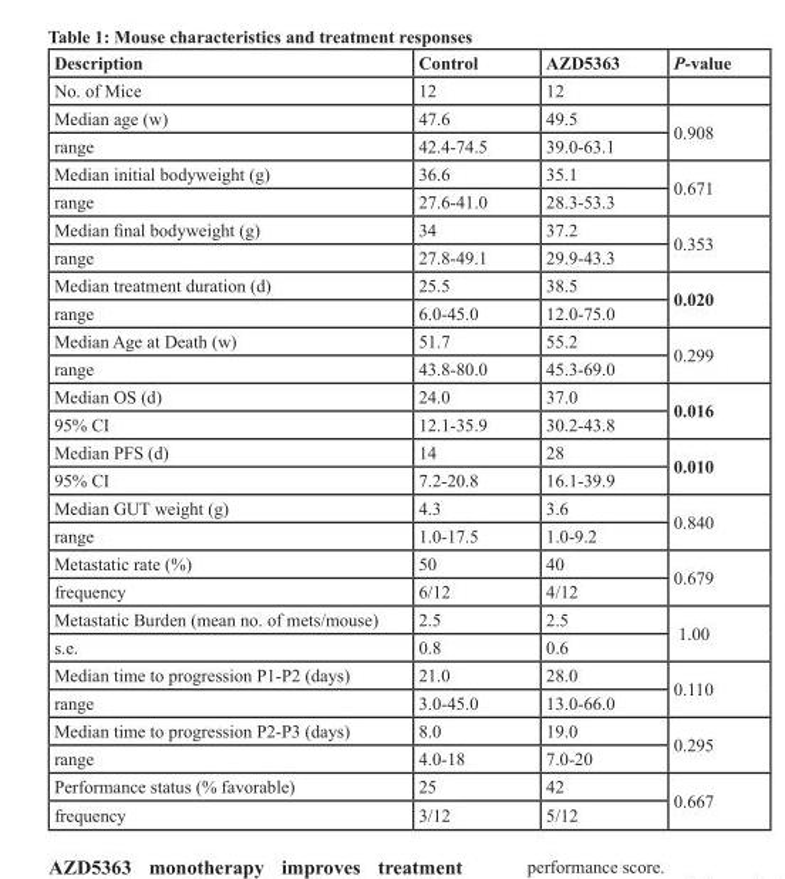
<table><thead><tr><td>Description</td><td>Control</td><td>AZD5363</td><td>P-value</td></tr></thead><tbody><tr><td>No. of Mice</td><td>12</td><td>12</td><td></td></tr><tr><td>Median age (w)</td><td>47.6</td><td>49.5</td><td rowspan="2">0.908</td></tr><tr><td>range</td><td>42.4-74.5</td><td>39.0-63.1</td></tr><tr><td>Median initial bodyweight (g)</td><td>36.6</td><td>35.1</td><td rowspan="2">0.671</td></tr><tr><td>range</td><td>27.6-41.0</td><td>28.3-53.3</td></tr><tr><td>Median final bodyweight (g)</td><td>34</td><td>37.2</td><td rowspan="2">0.353</td></tr><tr><td>range</td><td>27.8-49.1</td><td>29.9-43.3</td></tr><tr><td>Median treatment duration (d)</td><td>25.5</td><td>38.5</td><td rowspan="2">0.020</td></tr><tr><td>range</td><td>6.0-45.0</td><td>12.0-75.0</td></tr><tr><td>Median Age at Death (w)</td><td>51.7</td><td>55.2</td><td rowspan="2">0.299</td></tr><tr><td>range</td><td>43.8-80.0</td><td>45.3-69.0</td></tr><tr><td>Median OS (d)</td><td>24.0</td><td>37.0</td><td rowspan="2">0.016</td></tr><tr><td>95% CI</td><td>12.1-35.9</td><td>30.2-43.8</td></tr><tr><td>Median PFS (d)</td><td>14</td><td>28</td><td rowspan="2">0.010</td></tr><tr><td>95% CI</td><td>7.2-20.8</td><td>16.1-39.9</td></tr><tr><td>Median GUT weight (g)</td><td>4.3</td><td>3.6</td><td rowspan="2">0.840</td></tr><tr><td>range</td><td>1.0-17.5</td><td>1.0-9.2</td></tr><tr><td>Metastatic rate (%)</td><td>50</td><td>40</td><td rowspan="2">0.679</td></tr><tr><td>frequency</td><td>6/12</td><td>4/12</td></tr><tr><td>Metastatic Burden (mean no. of mets/mouse)</td><td>2.5</td><td>2.5</td><td rowspan="2">1.00</td></tr><tr><td>s.e.</td><td>0.8</td><td>0.6</td></tr><tr><td>Median time to progression P1-P2 (days)</td><td>21.0</td><td>28.0</td><td rowspan="2">0.110</td></tr><tr><td>range</td><td>3.0-45.0</td><td>13.0-66.0</td></tr><tr><td>Median time to progression P2-P3 (days)</td><td>8.0</td><td>19.0</td><td rowspan="2">0.295</td></tr><tr><td>range</td><td>4.0-18</td><td>7.0-20</td></tr><tr><td>Performance status (% favorable)</td><td>25</td><td>42</td><td rowspan="2">0.667</td></tr><tr><td>frequency</td><td>3/12</td><td>5/12</td></tr></tbody></table>